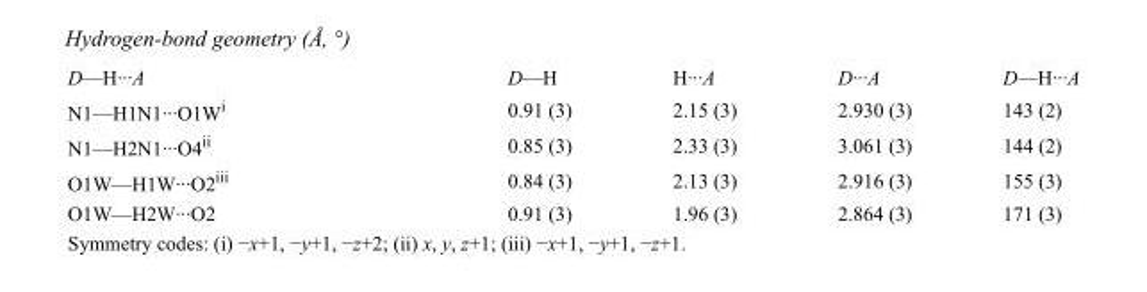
<table><tbody><tr><td>D—H···A</td><td>D—H</td><td>H···A</td><td>D···A</td><td>D—H···A</td></tr><tr><td>N1—H1N1···O1W<sup>i</sup></td><td>0.91 (3)</td><td>2.15 (3)</td><td>2.930 (3)</td><td>143 (2)</td></tr><tr><td>N1—H2N1···O4<sup>ii</sup></td><td>0.85 (3)</td><td>2.33 (3)</td><td>3.061 (3)</td><td>144 (2)</td></tr><tr><td>O1W—H1W···O2<sup>iii</sup></td><td>0.84 (3)</td><td>2.13 (3)</td><td>2.916 (3)</td><td>155 (3)</td></tr><tr><td>O1W—H2W···O2</td><td>0.91 (3)</td><td>1.96 (3)</td><td>2.864 (3)</td><td>171 (3)</td></tr></tbody></table>